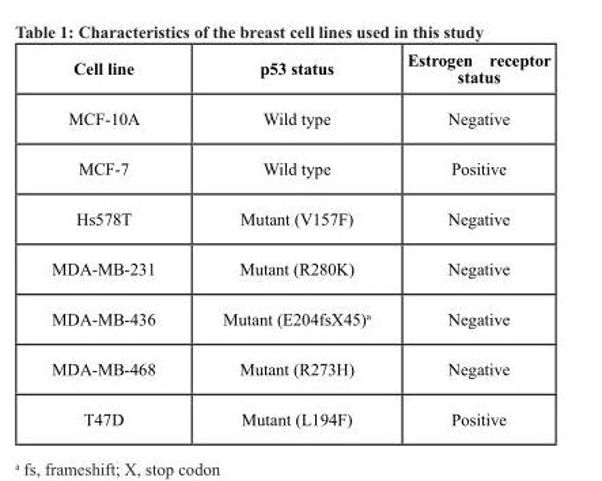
<table><thead><tr><td>Cell line</td><td>p53 status</td><td>Estrogen receptor status</td></tr></thead><tbody><tr><td>MCF-10A</td><td>Wild type</td><td>Negative</td></tr><tr><td>MCF-7</td><td>Wild type</td><td>Positive</td></tr><tr><td>Hs578T</td><td>Mutant (V157F)</td><td>Negative</td></tr><tr><td>MDA-MB-231</td><td>Mutant (R280K)</td><td>Negative</td></tr><tr><td>MDA-MB-436</td><td>Mutant (E204fsX45)<sup>a</sup></td><td>Negative</td></tr><tr><td>MDA-MB-468</td><td>Mutant (R273H)</td><td>Negative</td></tr><tr><td>T47D</td><td>Mutant (L194F)</td><td>Positive</td></tr></tbody></table>